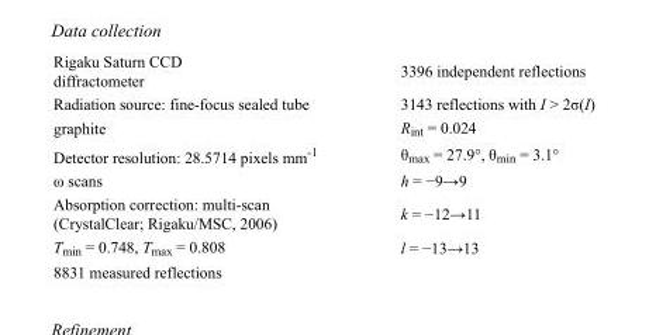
<table><tbody><tr><td>Rigaku Saturn CCD diffractometer</td><td>3396 independent reflections</td></tr><tr><td>Radiation source: fine-focus sealed tube</td><td>3143 reflections with I &gt; 2σ(I)</td></tr><tr><td>graphite</td><td>R<sub>int</sub> = 0.024</td></tr><tr><td>Detector resolution: 28.5714 pixels mm<sup>-1</sup></td><td>θ<sub>max</sub> = 27.9°, θ<sub>min</sub> = 3.1°</td></tr><tr><td>ω scans</td><td>h = −9→9</td></tr><tr><td>Absorption correction: multi-scan (CrystalClear; Rigaku/MSC, 2006)</td><td>k = −12→11</td></tr><tr><td>T<sub>min</sub> = 0.748, T<sub>max</sub> = 0.808</td><td>l = −13→13</td></tr><tr><td>8831 measured reflections</td><td></td></tr></tbody></table>